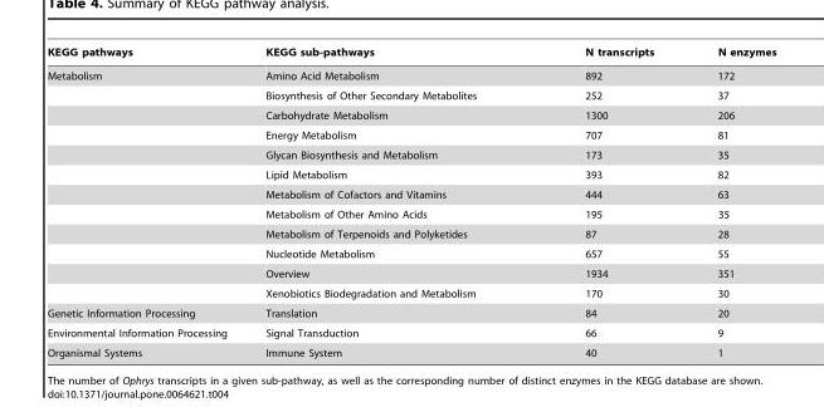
<table><thead><tr><td>KEGG pathways</td><td>KEGG sub-pathways</td><td>N transcripts</td><td>N enzymes</td></tr></thead><tbody><tr><td rowspan="12">Metabolism</td><td>Amino Acid Metabolism</td><td>892</td><td>172</td></tr><tr><td>Biosynthesis of Other Secondary Metabolites</td><td>252</td><td>37</td></tr><tr><td>Carbohydrate Metabolism</td><td>1300</td><td>206</td></tr><tr><td>Energy Metabolism</td><td>707</td><td>81</td></tr><tr><td>Glycan Biosynthesis and Metabolism</td><td>173</td><td>35</td></tr><tr><td>Lipid Metabolism</td><td>393</td><td>82</td></tr><tr><td>Metabolism of Cofactors and Vitamins</td><td>444</td><td>63</td></tr><tr><td>Metabolism of Other Amino Acids</td><td>195</td><td>35</td></tr><tr><td>Metabolism of Terpenoids and Polyketides</td><td>87</td><td>28</td></tr><tr><td>Nucleotide Metabolism</td><td>657</td><td>55</td></tr><tr><td>Overview</td><td>1934</td><td>351</td></tr><tr><td>Xenobiotics Biodegradation and Metabolism</td><td>170</td><td>30</td></tr><tr><td>Genetic Information Processing</td><td>Translation</td><td>84</td><td>20</td></tr><tr><td>Environmental Information Processing</td><td>Signal Transduction</td><td>66</td><td>9</td></tr><tr><td>Organismal Systems</td><td>Immune System</td><td>40</td><td>1</td></tr></tbody></table>